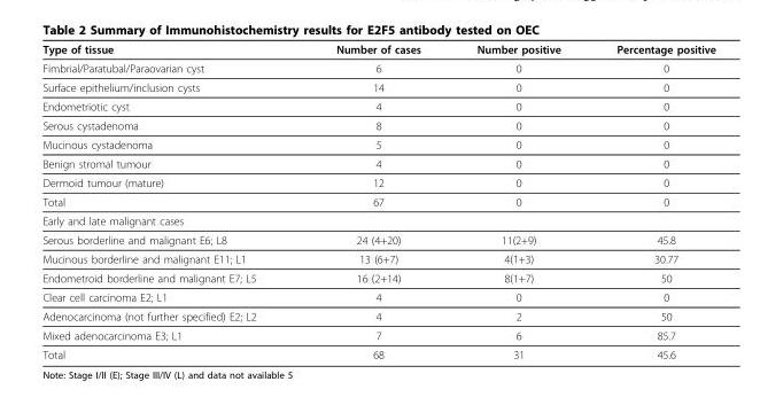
<table><thead><tr><td>Type of tissue</td><td>Number of cases</td><td>Number positive</td><td>Percentage positive</td></tr></thead><tbody><tr><td>Fimbrial/Paratubal/Paraovarian cyst</td><td>6</td><td>0</td><td>0</td></tr><tr><td>Surface epithelium/inclusion cysts</td><td>14</td><td>0</td><td>0</td></tr><tr><td>Endometriotic cyst</td><td>4</td><td>0</td><td>0</td></tr><tr><td>Serous cystadenoma</td><td>8</td><td>0</td><td>0</td></tr><tr><td>Mucinous cystadenoma</td><td>5</td><td>0</td><td>0</td></tr><tr><td>Benign stromal tumour</td><td>4</td><td>0</td><td>0</td></tr><tr><td>Dermoid tumour (mature)</td><td>12</td><td>0</td><td>0</td></tr><tr><td>Total</td><td>67</td><td>0</td><td>0</td></tr><tr><td colspan="4">Early and late malignant cases</td></tr><tr><td>Serous borderline and malignant E6; L8</td><td>24 (4+20)</td><td>11(2+9)</td><td>45.8</td></tr><tr><td>Mucinous borderline and malignant E11; L1</td><td>13 (6+7)</td><td>4(1+3)</td><td>30.77</td></tr><tr><td>Endometroid borderline and malignant E7; L5</td><td>16 (2+14)</td><td>8(1+7)</td><td>50</td></tr><tr><td>Clear cell carcinoma E2; L1</td><td>4</td><td>0</td><td>0</td></tr><tr><td>Adenocarcinoma (not further specified) E2; L2</td><td>4</td><td>2</td><td>50</td></tr><tr><td>Mixed adenocarcinoma E3; L1</td><td>7</td><td>6</td><td>85.7</td></tr><tr><td>Total</td><td>68</td><td>31</td><td>45.6</td></tr></tbody></table>